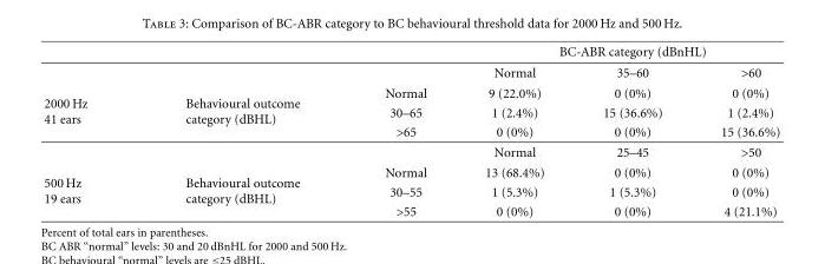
<table><thead><tr><td rowspan="2"></td><td rowspan="2"></td><td rowspan="2"></td><td colspan="3">BC-ABR category (dBnHL)</td></tr><tr><td>Normal</td><td>35–60</td><td>&gt;60</td></tr></thead><tbody><tr><td rowspan="4">2000 Hz 41 ears</td><td rowspan="3">Behavioural outcome category (dBHL)</td><td>Normal</td><td>9 (22.0%)</td><td>0 (0%)</td><td>0 (0%)</td></tr><tr><td>30–65</td><td>1 (2.4%)</td><td>15 (36.6%)</td><td>1 (2.4%)</td></tr><tr><td>&gt;65</td><td>0 (0%)</td><td>0 (0%)</td><td>15 (36.6%)</td></tr><tr><td></td><td></td><td>Normal</td><td>25–45</td><td>&gt;50</td></tr><tr><td rowspan="3">500 Hz 19 ears</td><td rowspan="3">Behavioural outcome category (dBHL)</td><td>Normal</td><td>13 (68.4%)</td><td>0 (0%)</td><td>0 (0%)</td></tr><tr><td>30–55</td><td>1 (5.3%)</td><td>1 (5.3%)</td><td>0 (0%)</td></tr><tr><td>&gt;55</td><td>0 (0%)</td><td>0 (0%)</td><td>4 (21.1%)</td></tr></tbody></table>